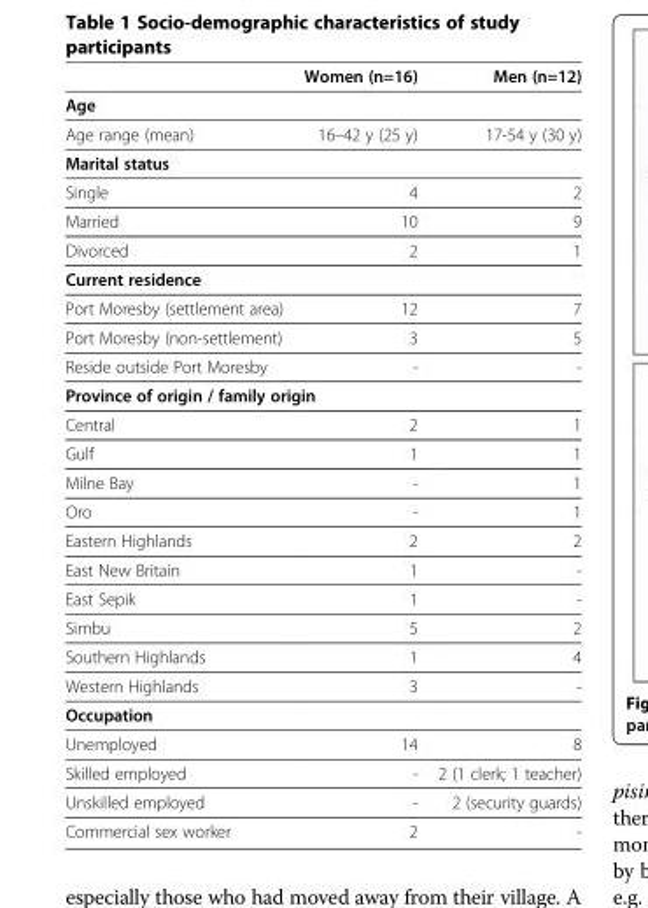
<table><thead><tr><td></td><td>Women (n=16)</td><td>Men (n=12)</td></tr></thead><tbody><tr><td colspan="3">Age</td></tr><tr><td>Age range (mean)</td><td>16–42 y (25 y)</td><td>17-54 y (30 y)</td></tr><tr><td colspan="3">Marital status</td></tr><tr><td>Single</td><td>4</td><td>2</td></tr><tr><td>Married</td><td>10</td><td>9</td></tr><tr><td>Divorced</td><td>2</td><td>1</td></tr><tr><td colspan="3">Current residence</td></tr><tr><td>Port Moresby (settlement area)</td><td>12</td><td>7</td></tr><tr><td>Port Moresby (non-settlement)</td><td>3</td><td>5</td></tr><tr><td>Reside outside Port Moresby</td><td>-</td><td>-</td></tr><tr><td colspan="3">Province of origin / family origin</td></tr><tr><td>Central</td><td>2</td><td>1</td></tr><tr><td>Gulf</td><td>1</td><td>1</td></tr><tr><td>Milne Bay</td><td>-</td><td>1</td></tr><tr><td>Oro</td><td>-</td><td>1</td></tr><tr><td>Eastern Highlands</td><td>2</td><td>2</td></tr><tr><td>East New Britain</td><td>1</td><td>-</td></tr><tr><td>East Sepik</td><td>1</td><td>-</td></tr><tr><td>Simbu</td><td>5</td><td>2</td></tr><tr><td>Southern Highlands</td><td>1</td><td>4</td></tr><tr><td>Western Highlands</td><td>3</td><td>-</td></tr><tr><td colspan="3">Occupation</td></tr><tr><td>Unemployed</td><td>14</td><td>8</td></tr><tr><td>Skilled employed</td><td>-</td><td>2 (1 clerk; 1 teacher)</td></tr><tr><td>Unskilled employed</td><td>-</td><td>2 (security guards)</td></tr><tr><td>Commercial sex worker</td><td>2</td><td>-</td></tr></tbody></table>